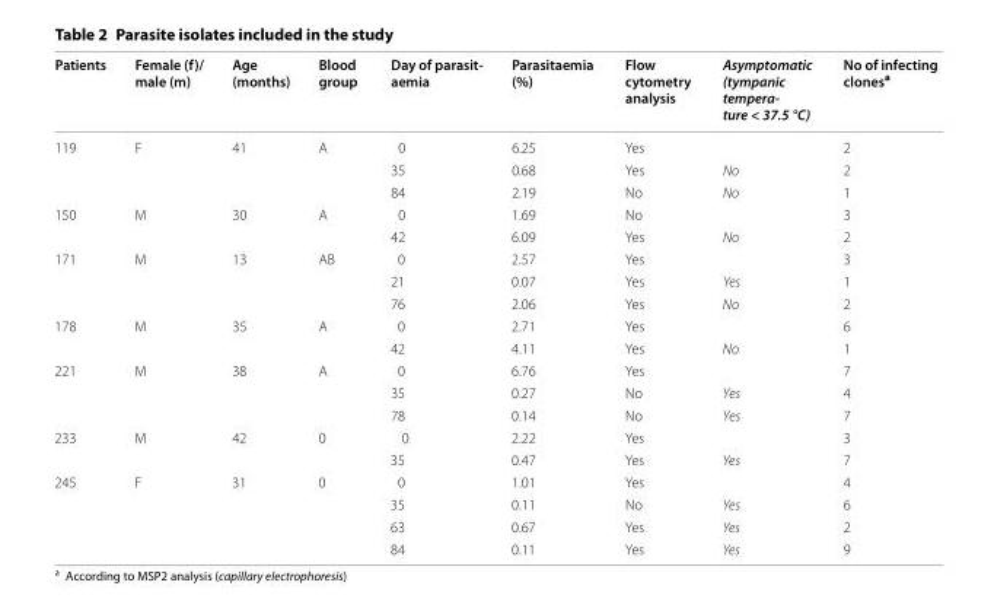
<table><thead><tr><td>Patients</td><td>Female (f)/ male (m)</td><td>Age (months)</td><td>Blood group</td><td>Day of parasit- aemia</td><td>Parasitaemia (%)</td><td>Flow cytometry analysis</td><td>Asymptomatic (tympanic tempera- ture &lt; 37.5 °C)</td><td>No of infecting clones<sup>a</sup></td></tr></thead><tbody><tr><td rowspan="3">119</td><td rowspan="3">F</td><td rowspan="3">41</td><td rowspan="3">A</td><td>0</td><td>6.25</td><td>Yes</td><td></td><td>2</td></tr><tr><td>35</td><td>0.68</td><td>Yes</td><td>No</td><td>2</td></tr><tr><td>84</td><td>2.19</td><td>No</td><td>No</td><td>1</td></tr><tr><td rowspan="2">150</td><td rowspan="2">M</td><td rowspan="2">30</td><td rowspan="2">A</td><td>0</td><td>1.69</td><td>No</td><td></td><td>3</td></tr><tr><td>42</td><td>6.09</td><td>Yes</td><td>No</td><td>2</td></tr><tr><td rowspan="3">171</td><td rowspan="3">M</td><td rowspan="3">13</td><td rowspan="3">AB</td><td>0</td><td>2.57</td><td>Yes</td><td></td><td>3</td></tr><tr><td>21</td><td>0.07</td><td>Yes</td><td>Yes</td><td>1</td></tr><tr><td>76</td><td>2.06</td><td>Yes</td><td>No</td><td>2</td></tr><tr><td rowspan="2">178</td><td rowspan="2">M</td><td rowspan="2">35</td><td rowspan="2">A</td><td>0</td><td>2.71</td><td>Yes</td><td></td><td>6</td></tr><tr><td>42</td><td>4.11</td><td>Yes</td><td>No</td><td>1</td></tr><tr><td rowspan="3">221</td><td rowspan="3">M</td><td rowspan="3">38</td><td rowspan="3">A</td><td>0</td><td>6.76</td><td>Yes</td><td></td><td>7</td></tr><tr><td>35</td><td>0.27</td><td>No</td><td>Yes</td><td>4</td></tr><tr><td>78</td><td>0.14</td><td>No</td><td>Yes</td><td>7</td></tr><tr><td rowspan="2">233</td><td rowspan="2">M</td><td rowspan="2">42</td><td rowspan="2">0</td><td>0</td><td>2.22</td><td>Yes</td><td></td><td>3</td></tr><tr><td>35</td><td>0.47</td><td>Yes</td><td>Yes</td><td>7</td></tr><tr><td rowspan="4">245</td><td rowspan="4">F</td><td rowspan="4">31</td><td rowspan="4">0</td><td>0</td><td>1.01</td><td>Yes</td><td></td><td>4</td></tr><tr><td>35</td><td>0.11</td><td>No</td><td>Yes</td><td>6</td></tr><tr><td>63</td><td>0.67</td><td>Yes</td><td>Yes</td><td>2</td></tr><tr><td>84</td><td>0.11</td><td>Yes</td><td>Yes</td><td>9</td></tr></tbody></table>